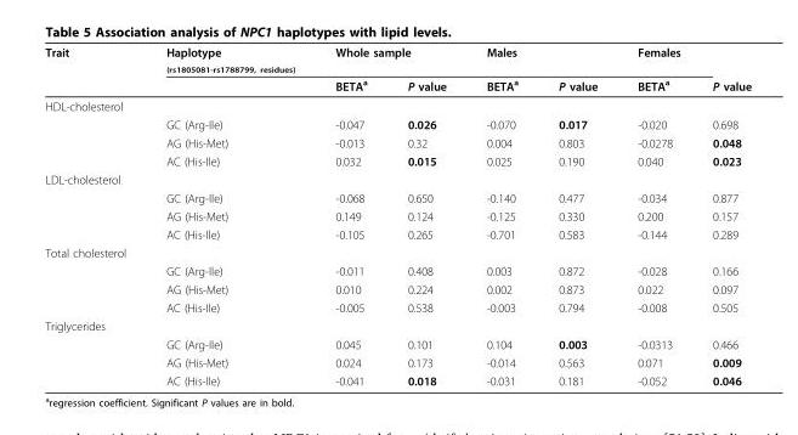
<table><thead><tr><td rowspan="2">Trait</td><td rowspan="2">Haplotype <sub>(rs1805081-rs1788799, residues)</sub></td><td colspan="2">Whole sample</td><td colspan="2">Males</td><td colspan="2">Females</td></tr><tr><td>BETA<sup>a</sup></td><td>P value</td><td>BETA<sup>a</sup></td><td>P value</td><td>BETA<sup>a</sup></td><td>P value</td></tr></thead><tbody><tr><td colspan="8">HDL-cholesterol</td></tr><tr><td></td><td>GC (Arg-Ile)</td><td>-0.047</td><td>0.026</td><td>-0.070</td><td>0.017</td><td>-0.020</td><td>0.698</td></tr><tr><td></td><td>AG (His-Met)</td><td>-0.013</td><td>0.32</td><td>0.004</td><td>0.803</td><td>-0.0278</td><td>0.048</td></tr><tr><td></td><td>AC (His-Ile)</td><td>0.032</td><td>0.015</td><td>0.025</td><td>0.190</td><td>0.040</td><td>0.023</td></tr><tr><td colspan="8">LDL-cholesterol</td></tr><tr><td></td><td>GC (Arg-Ile)</td><td>-0.068</td><td>0.650</td><td>-0.140</td><td>0.477</td><td>-0.034</td><td>0.877</td></tr><tr><td></td><td>AG (His-Met)</td><td>0.149</td><td>0.124</td><td>-0.125</td><td>0.330</td><td>0.200</td><td>0.157</td></tr><tr><td></td><td>AC (His-Ile)</td><td>-0.105</td><td>0.265</td><td>-0.701</td><td>0.583</td><td>-0.144</td><td>0.289</td></tr><tr><td colspan="8">Total cholesterol</td></tr><tr><td></td><td>GC (Arg-Ile)</td><td>-0.011</td><td>0.408</td><td>0.003</td><td>0.872</td><td>-0.028</td><td>0.166</td></tr><tr><td></td><td>AG (His-Met)</td><td>0.010</td><td>0.224</td><td>0.002</td><td>0.873</td><td>0.022</td><td>0.097</td></tr><tr><td></td><td>AC (His-Ile)</td><td>-0.005</td><td>0.538</td><td>-0.003</td><td>0.794</td><td>-0.008</td><td>0.505</td></tr><tr><td colspan="8">Triglycerides</td></tr><tr><td></td><td>GC (Arg-Ile)</td><td>0.045</td><td>0.101</td><td>0.104</td><td>0.003</td><td>-0.0313</td><td>0.466</td></tr><tr><td></td><td>AG (His-Met)</td><td>0.024</td><td>0.173</td><td>-0.014</td><td>0.563</td><td>0.071</td><td>0.009</td></tr><tr><td></td><td>AC (His-Ile)</td><td>-0.041</td><td>0.018</td><td>-0.031</td><td>0.181</td><td>-0.052</td><td>0.046</td></tr></tbody></table>